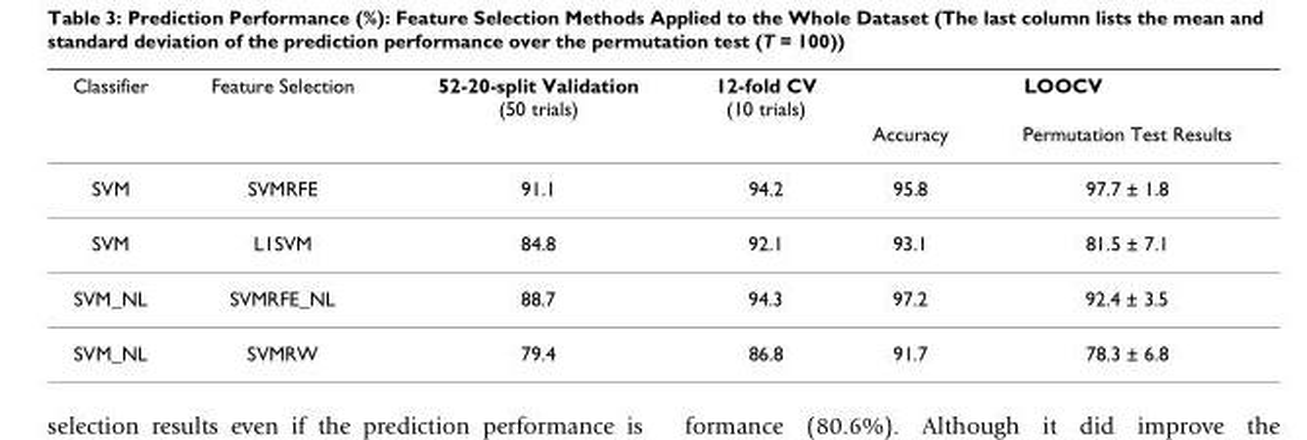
<table><thead><tr><td rowspan="2">Classifier</td><td rowspan="2">Feature Selection</td><td rowspan="2">52-20-split Validation (50 trials)</td><td rowspan="2">12-fold CV (10 trials)</td><td colspan="2">LOOCV</td></tr><tr><td>Accuracy</td><td>Permutation Test Results</td></tr></thead><tbody><tr><td>SVM</td><td>SVMRFE</td><td>91.1</td><td>94.2</td><td>95.8</td><td>97.7 ± 1.8</td></tr><tr><td>SVM</td><td>L1SVM</td><td>84.8</td><td>92.1</td><td>93.1</td><td>81.5 ± 7.1</td></tr><tr><td>SVM_NL</td><td>SVMRFE_NL</td><td>88.7</td><td>94.3</td><td>97.2</td><td>92.4 ± 3.5</td></tr><tr><td>SVM_NL</td><td>SVMRW</td><td>79.4</td><td>86.8</td><td>91.7</td><td>78.3 ± 6.8</td></tr></tbody></table>